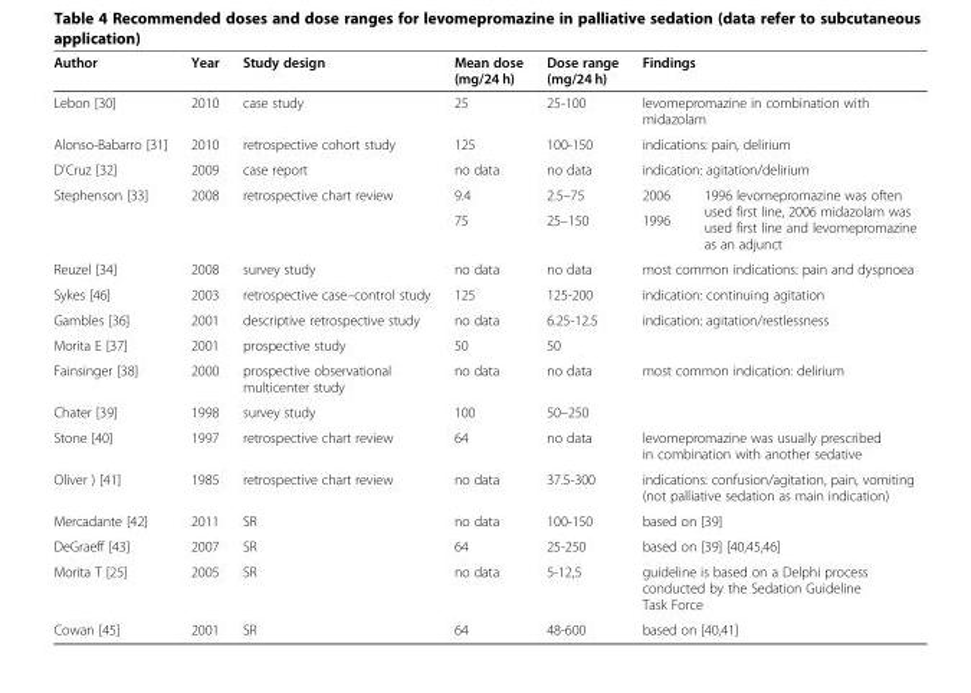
<table><thead><tr><td>Author</td><td>Year</td><td>Study design</td><td>Mean dose (mg/24 h)</td><td>Dose range (mg/24 h)</td><td colspan="2">Findings</td></tr></thead><tbody><tr><td>Lebon [30]</td><td>2010</td><td>case study</td><td>25</td><td>25-100</td><td colspan="2">levomepromazine in combination with midazolam</td></tr><tr><td>Alonso-Babarro [31]</td><td>2010</td><td>retrospective cohort study</td><td>125</td><td>100-150</td><td colspan="2">indications: pain, delirium</td></tr><tr><td>D&#x27;Cruz [32]</td><td>2009</td><td>case report</td><td>no data</td><td>no data</td><td colspan="2">indication: agitation/delirium</td></tr><tr><td rowspan="2">Stephenson [33]</td><td rowspan="2">2008</td><td rowspan="2">retrospective chart review</td><td>9.4</td><td>2.5–75</td><td>2006</td><td rowspan="2">1996 levomepromazine was often used first line, 2006 midazolam was used first line and levomepromazine as an adjunct</td></tr><tr><td>75</td><td>25–150</td><td>1996</td></tr><tr><td>Reuzel [34]</td><td>2008</td><td>survey study</td><td>no data</td><td>no data</td><td colspan="2">most common indications: pain and dyspnoea</td></tr><tr><td>Sykes [46]</td><td>2003</td><td>retrospective case–control study</td><td>125</td><td>125-200</td><td colspan="2">indication: continuing agitation</td></tr><tr><td>Gambles [36]</td><td>2001</td><td>descriptive retrospective study</td><td>no data</td><td>6.25-12.5</td><td colspan="2">indication: agitation/restlessness</td></tr><tr><td>Morita E [37]</td><td>2001</td><td>prospective study</td><td>50</td><td>50</td><td></td><td></td></tr><tr><td>Fainsinger [38]</td><td>2000</td><td>prospective observational multicenter study</td><td>no data</td><td>no data</td><td colspan="2">most common indication: delirium</td></tr><tr><td>Chater [39]</td><td>1998</td><td>survey study</td><td>100</td><td>50–250</td><td colspan="2"></td></tr><tr><td>Stone [40]</td><td>1997</td><td>retrospective chart review</td><td>64</td><td>no data</td><td colspan="2">levomepromazine was usually prescribed in combination with another sedative</td></tr><tr><td>Oliver ) [41]</td><td>1985</td><td>retrospective chart review</td><td>no data</td><td>37.5-300</td><td colspan="2">indications: confusion/agitation, pain, vomiting (not palliative sedation as main indication)</td></tr><tr><td>Mercadante [42]</td><td>2011</td><td>SR</td><td>no data</td><td>100-150</td><td colspan="2">based on [39]</td></tr><tr><td>DeGraeff [43]</td><td>2007</td><td>SR</td><td>64</td><td>25-250</td><td colspan="2">based on [39] [40,45,46]</td></tr><tr><td>Morita T [25]</td><td>2005</td><td>SR</td><td>no data</td><td>5-12,5</td><td colspan="2">guideline is based on a Delphi process conducted by the Sedation Guideline Task Force</td></tr><tr><td>Cowan [45]</td><td>2001</td><td>SR</td><td>64</td><td>48-600</td><td colspan="2">based on [40,41]</td></tr></tbody></table>